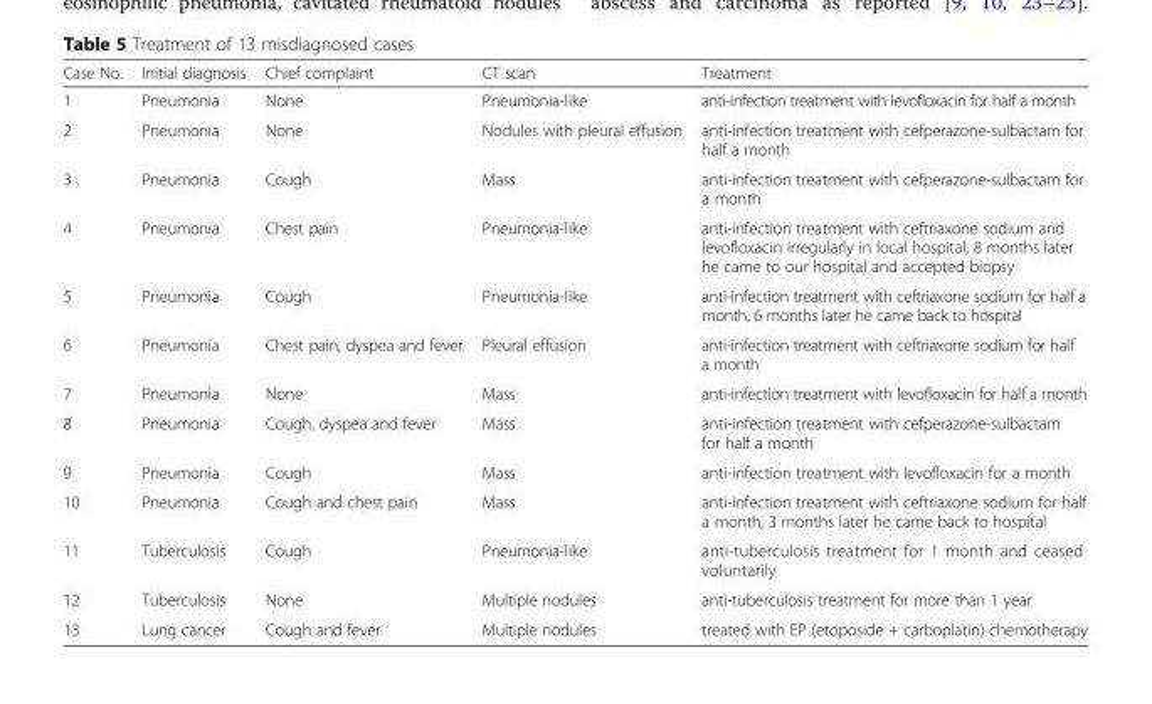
<table><thead><tr><td>Case No.</td><td>Initial diagnosis</td><td>Chief complaint</td><td>CT scan</td><td>Treatment</td></tr></thead><tbody><tr><td>1</td><td>Pneumonia</td><td>None</td><td>Pneumonia-like</td><td>anti-infection treatment with levofloxacin for half a month</td></tr><tr><td>2</td><td>Pneumonia</td><td>None</td><td>Nodules with pleural effusion</td><td>anti-infection treatment with cefperazone-sulbactam for half a month</td></tr><tr><td>3</td><td>Pneumonia</td><td>Cough</td><td>Mass</td><td>anti-infection treatment with cefperazone-sulbactam for a month</td></tr><tr><td>4</td><td>Pneumonia</td><td>Chest pain</td><td>Pneumonia-like</td><td>anti-infection treatment with ceftriaxone sodium and levofloxacin irregularly in local hospital, 8 months later he came to our hospital and accepted biopsy</td></tr><tr><td>5</td><td>Pneumonia</td><td>Cough</td><td>Pneumonia-like</td><td>anti-infection treatment with ceftriaxone sodium for half a month, 6 months later he came back to hospital</td></tr><tr><td>6</td><td>Pneumonia</td><td>Chest pain, dyspea and fever</td><td>Pleural effusion</td><td>anti-infection treatment with ceftriaxone sodium for half a month</td></tr><tr><td>7</td><td>Pneumonia</td><td>None</td><td>Mass</td><td>anti-infection treatment with levofloxacin for half a month</td></tr><tr><td>8</td><td>Pneumonia</td><td>Cough, dyspea and fever</td><td>Mass</td><td>anti-infection treatment with cefperazone-sulbactam for half a month</td></tr><tr><td>9</td><td>Pneumonia</td><td>Cough</td><td>Mass</td><td>anti-infection treatment with levofloxacin for a month</td></tr><tr><td>10</td><td>Pneumonia</td><td>Cough and chest pain</td><td>Mass</td><td>anti-infection treatment with ceftriaxone sodium for half a month, 3 months later he came back to hospital</td></tr><tr><td>11</td><td>Tuberculosis</td><td>Cough</td><td>Pneumonia-like</td><td>anti-tuberculosis treatment for 1 month and ceased voluntarily</td></tr><tr><td>12</td><td>Tuberculosis</td><td>None</td><td>Multiple nodules</td><td>anti-tuberculosis treatment for more than 1 year</td></tr><tr><td>13</td><td>Lung cancer</td><td>Cough and fever</td><td>Multiple nodules</td><td>treated with EP (etoposide + carboplatin) chemotherapy</td></tr></tbody></table>